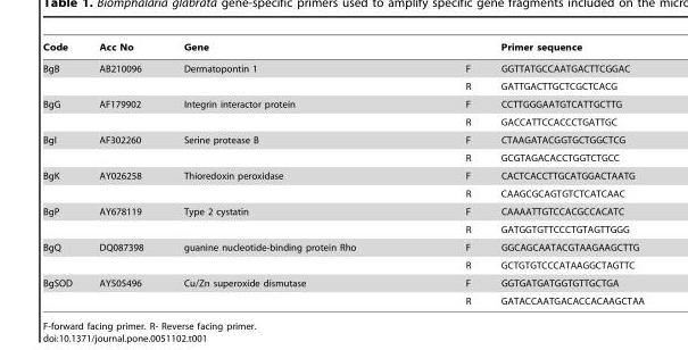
<table><thead><tr><td>Code</td><td>Acc No</td><td>Gene</td><td></td><td>Primer sequence</td></tr></thead><tbody><tr><td rowspan="2">BgB</td><td>AB210096</td><td>Dermatopontin 1</td><td>F</td><td>GGTTATGCCAATGACTTCGGAC</td></tr><tr><td></td><td></td><td>R</td><td>GATTGACTTGCTCGCTCACG</td></tr><tr><td rowspan="2">BgG</td><td>AF179902</td><td>Integrin interactor protein</td><td>F</td><td>CCTTGGGAATGTCATTGCTTG</td></tr><tr><td></td><td></td><td>R</td><td>GACCATTCCACCCTGATTGC</td></tr><tr><td rowspan="2">BgI</td><td>AF302260</td><td>Serine protease B</td><td>F</td><td>CTAAGATACGGTGCTGGCTCG</td></tr><tr><td></td><td></td><td>R</td><td>GCGTAGACACCTGGTCTGCC</td></tr><tr><td rowspan="2">BgK</td><td>AY026258</td><td>Thioredoxin peroxidase</td><td>F</td><td>CACTCACCTTGCATGGACTAATG</td></tr><tr><td></td><td></td><td>R</td><td>CAAGCGCAGTGTCTCATCAAC</td></tr><tr><td rowspan="2">BgP</td><td>AY678119</td><td>Type 2 cystatin</td><td>F</td><td>CAAAATTGTCCACGCCACATC</td></tr><tr><td></td><td></td><td>R</td><td>GATGGTGTTCCCTGTAGTTGGG</td></tr><tr><td rowspan="2">BgQ</td><td>DQ087398</td><td>guanine nucleotide-binding protein Rho</td><td>F</td><td>GGCAGCAATACGTAAGAAGCTTG</td></tr><tr><td></td><td></td><td>R</td><td>GCTGTGTCCCATAAGGCTAGTTC</td></tr><tr><td rowspan="2">BgSOD</td><td>AY505496</td><td>Cu/Zn superoxide dismutase</td><td>F</td><td>GGTGATGATGGTGTTGCTGA</td></tr><tr><td></td><td></td><td>R</td><td>GATACCAATGACACCACAAGCTAA</td></tr></tbody></table>